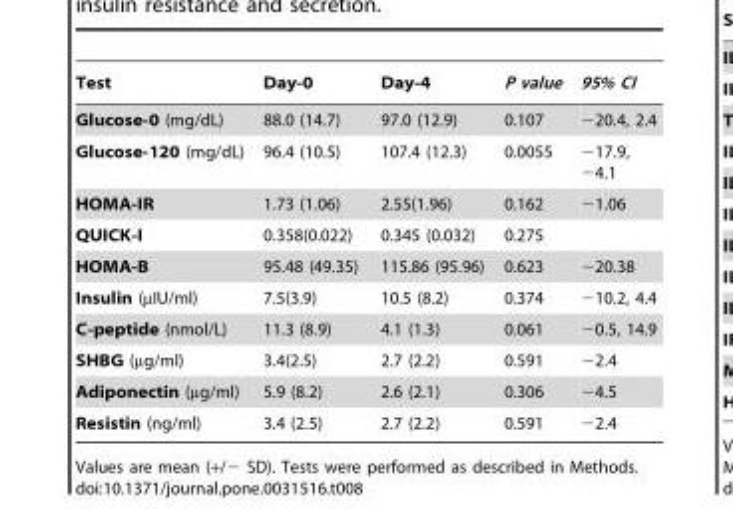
<table><thead><tr><td>Test</td><td>Day-0</td><td>Day-4</td><td>P value</td><td>95% CI</td></tr></thead><tbody><tr><td>Glucose-0 (mg/dL)</td><td>88.0 (14.7)</td><td>97.0 (12.9)</td><td>0.107</td><td>−20.4, 2.4</td></tr><tr><td>Glucose-120 (mg/dL)</td><td>96.4 (10.5)</td><td>107.4 (12.3)</td><td>0.0055</td><td>−17.9, −4.1</td></tr><tr><td>HOMA-IR</td><td>1.73 (1.06)</td><td>2.55(1.96)</td><td>0.162</td><td>−1.06</td></tr><tr><td>QUICK-I</td><td>0.358(0.022)</td><td>0.345 (0.032)</td><td>0.275</td><td></td></tr><tr><td>HOMA-B</td><td>95.48 (49.35)</td><td>115.86 (95.96)</td><td>0.623</td><td>−20.38</td></tr><tr><td>Insulin (µIU/ml)</td><td>7.5(3.9)</td><td>10.5 (8.2)</td><td>0.374</td><td>−10.2, 4.4</td></tr><tr><td>C-peptide (nmol/L)</td><td>11.3 (8.9)</td><td>4.1 (1.3)</td><td>0.061</td><td>−0.5, 14.9</td></tr><tr><td>SHBG (µg/ml)</td><td>3.4(2.5)</td><td>2.7 (2.2)</td><td>0.591</td><td>−2.4</td></tr><tr><td>Adiponectin (µg/ml)</td><td>5.9 (8.2)</td><td>2.6 (2.1)</td><td>0.306</td><td>−4.5</td></tr><tr><td>Resistin (ng/ml)</td><td>3.4 (2.5)</td><td>2.7 (2.2)</td><td>0.591</td><td>−2.4</td></tr></tbody></table>